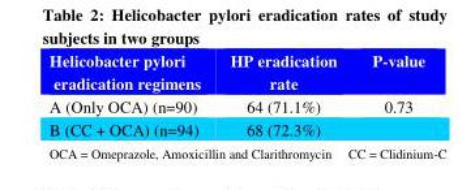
<table><tbody><tr><td>Helicobacter pylori eradication regimens</td><td>HP eradication rate</td><td>P-value</td></tr><tr><td>A (Only OCA) (n=90)</td><td>64 (71.1%)</td><td>0.73</td></tr><tr><td>B (CC + OCA) (n=94)</td><td>68 (72.3%)</td><td></td></tr></tbody></table>